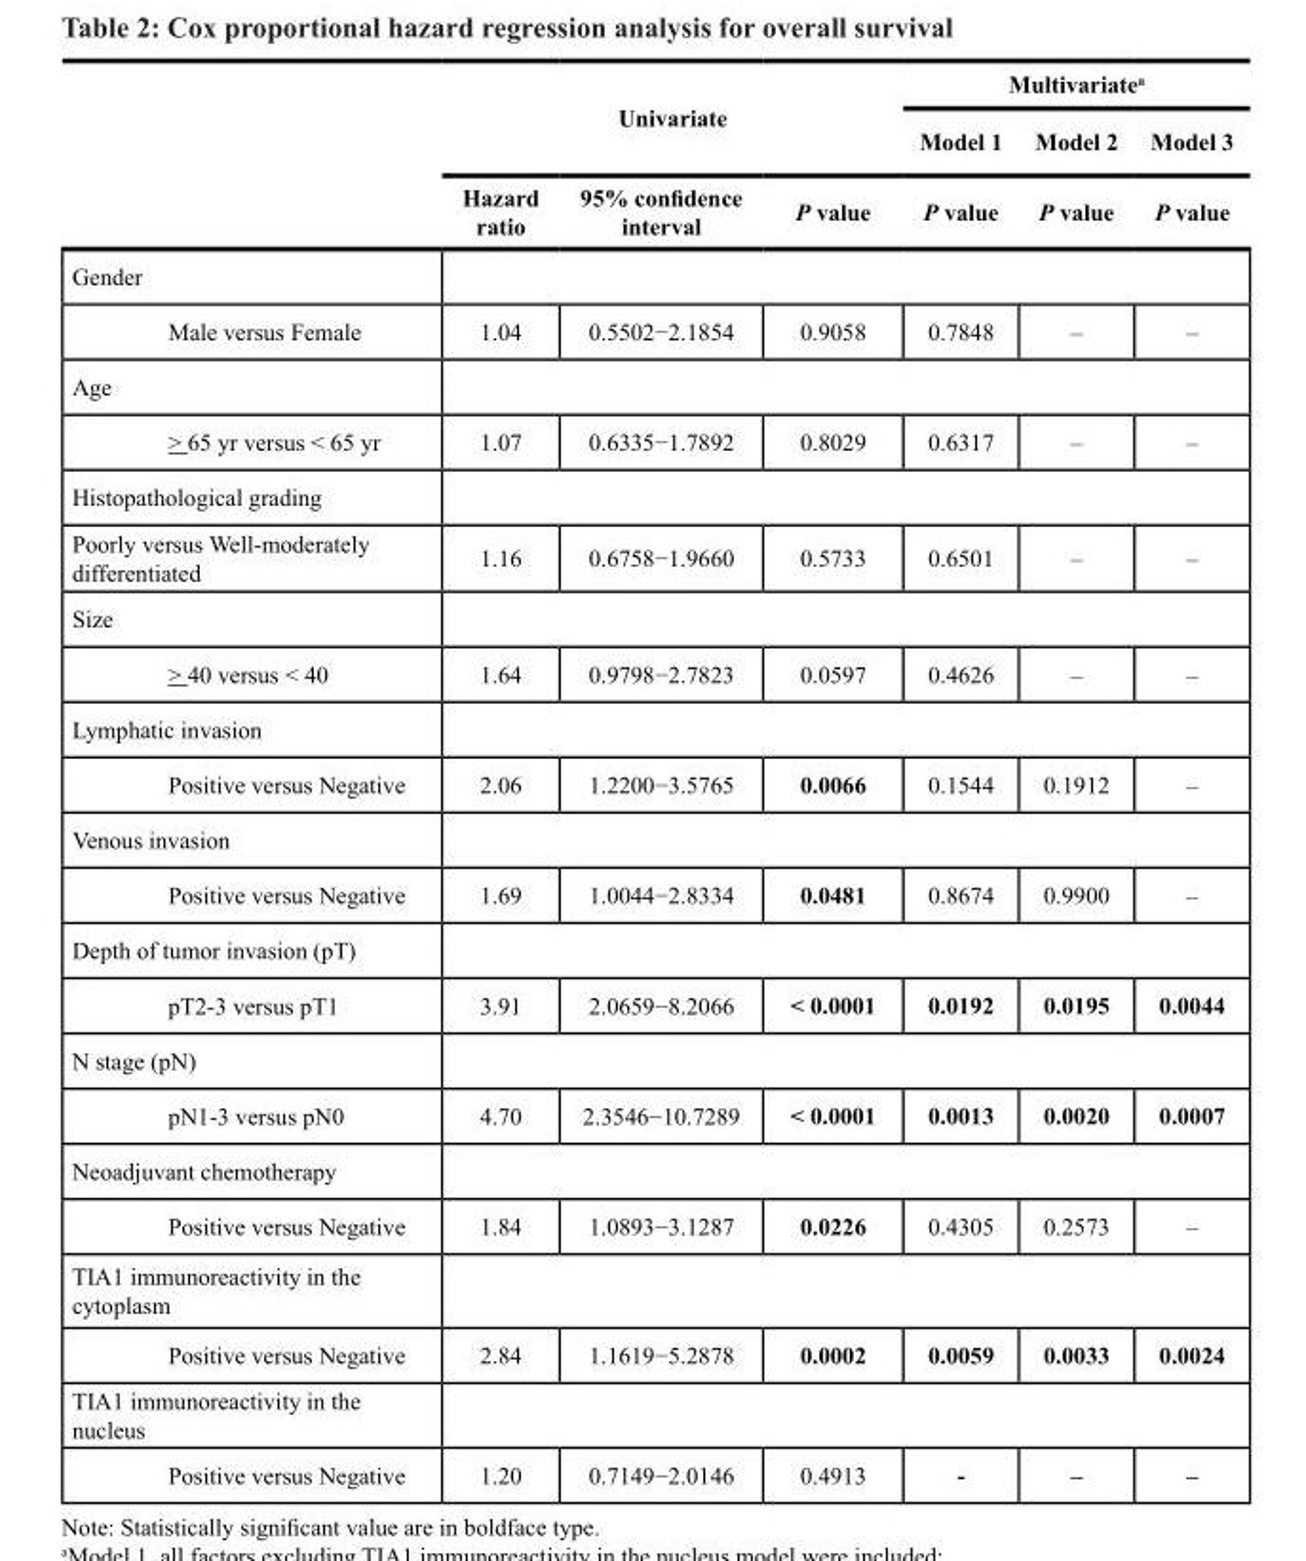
<table><thead><tr><td rowspan="3"></td><td rowspan="2" colspan="3">Univariate</td><td colspan="3">Multivariate<sup>a</sup></td></tr><tr><td rowspan="2">Model 1 P value</td><td rowspan="2">Model 2 P value</td><td rowspan="2">Model 3 P value</td></tr><tr><td>Hazard ratio</td><td>95% confidence interval</td><td>P value</td></tr></thead><tbody><tr><td colspan="7">Gender</td></tr><tr><td>Male versus Female</td><td>1.04</td><td>0.5502−2.1854</td><td>0.9058</td><td>0.7848</td><td>–</td><td>–</td></tr><tr><td colspan="7">Age</td></tr><tr><td>&gt; 65 yr versus &lt; 65 yr</td><td>1.07</td><td>0.6335−1.7892</td><td>0.8029</td><td>0.6317</td><td>–</td><td>–</td></tr><tr><td colspan="7">Histopathological grading</td></tr><tr><td>Poorly versus Well-moderately differentiated</td><td>1.16</td><td>0.6758−1.9660</td><td>0.5733</td><td>0.6501</td><td>–</td><td>–</td></tr><tr><td colspan="7">Size</td></tr><tr><td>&gt; 40 versus &lt; 40</td><td>1.64</td><td>0.9798−2.7823</td><td>0.0597</td><td>0.4626</td><td>–</td><td>–</td></tr><tr><td colspan="7">Lymphatic invasion</td></tr><tr><td>Positive versus Negative</td><td>2.06</td><td>1.2200−3.5765</td><td>0.0066</td><td>0.1544</td><td>0.1912</td><td>–</td></tr><tr><td colspan="7">Venous invasion</td></tr><tr><td>Positive versus Negative</td><td>1.69</td><td>1.0044−2.8334</td><td>0.0481</td><td>0.8674</td><td>0.9900</td><td>–</td></tr><tr><td colspan="7">Depth of tumor invasion (pT)</td></tr><tr><td>pT2-3 versus pT1</td><td>3.91</td><td>2.0659−8.2066</td><td>&lt; 0.0001</td><td>0.0192</td><td>0.0195</td><td>0.0044</td></tr><tr><td colspan="7">N stage (pN)</td></tr><tr><td>pN1-3 versus pN0</td><td>4.70</td><td>2.3546−10.7289</td><td>&lt; 0.0001</td><td>0.0013</td><td>0.0020</td><td>0.0007</td></tr><tr><td colspan="7">Neoadjuvant chemotherapy</td></tr><tr><td>Positive versus Negative</td><td>1.84</td><td>1.0893−3.1287</td><td>0.0226</td><td>0.4305</td><td>0.2573</td><td>–</td></tr><tr><td colspan="7">TIA1 immunoreactivity in the cytoplasm</td></tr><tr><td>Positive versus Negative</td><td>2.84</td><td>1.1619−5.2878</td><td>0.0002</td><td>0.0059</td><td>0.0033</td><td>0.0024</td></tr><tr><td colspan="7">TIA1 immunoreactivity in the nucleus</td></tr><tr><td>Positive versus Negative</td><td>1.20</td><td>0.7149−2.0146</td><td>0.4913</td><td>-</td><td>–</td><td>–</td></tr></tbody></table>